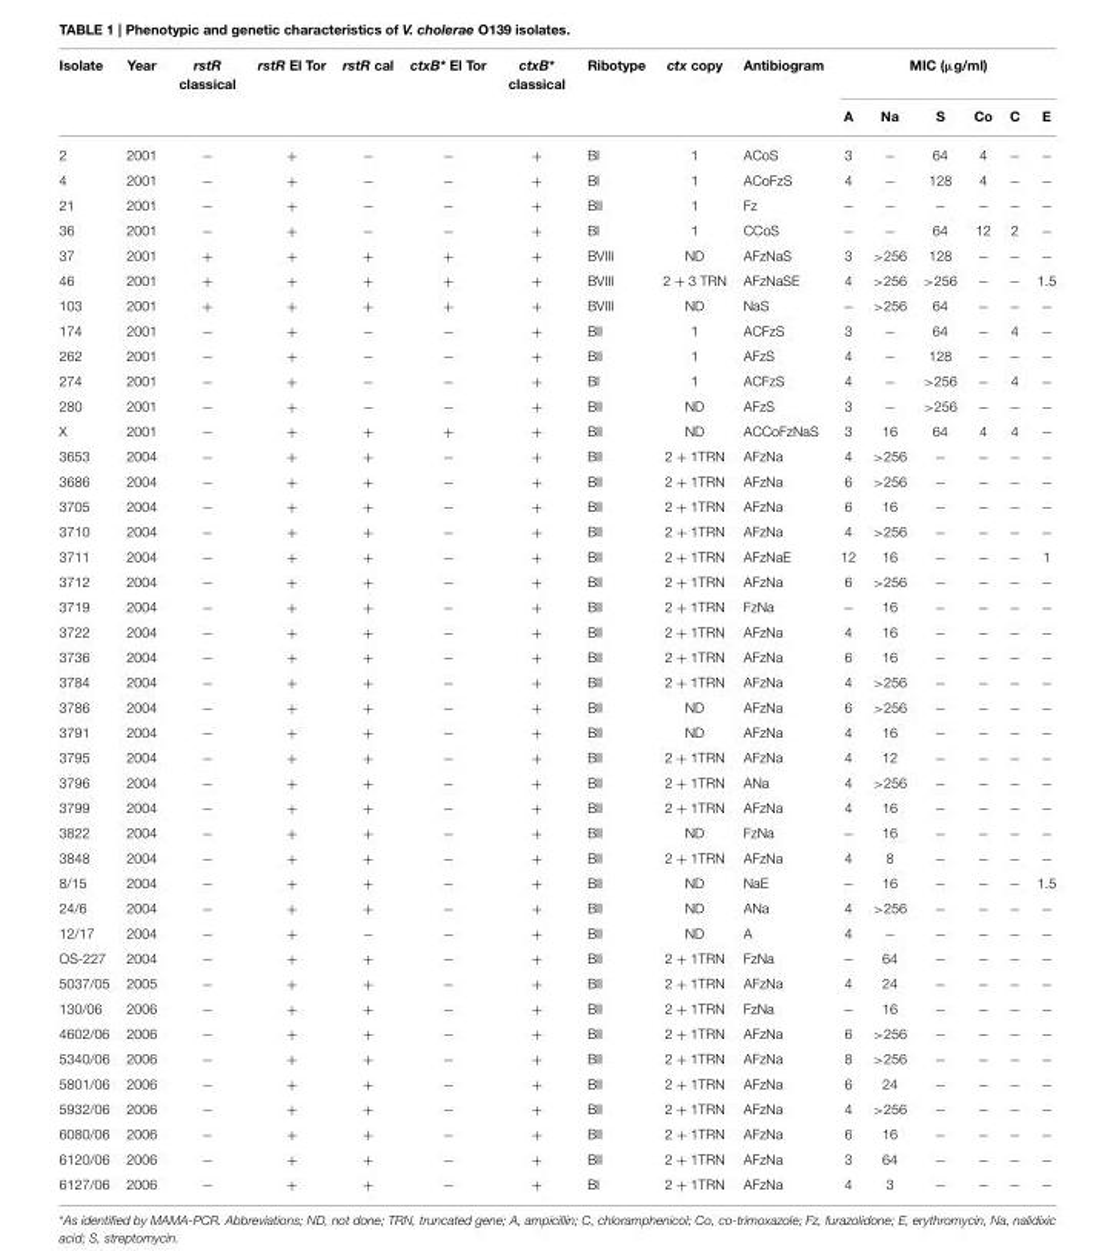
<table><thead><tr><td rowspan="2">Isolate</td><td rowspan="2">Year</td><td rowspan="2">rstR classical</td><td rowspan="2">rstR El Tor</td><td rowspan="2">rstR cal</td><td rowspan="2">ctxB* El Tor</td><td rowspan="2">ctxB* classical</td><td rowspan="2">Ribotype</td><td rowspan="2">ctx copy</td><td rowspan="2">Antibiogram</td><td colspan="6">MIC (µg/ml)</td></tr><tr><td>A</td><td>Na</td><td>S</td><td>Co</td><td>C</td><td>E</td></tr></thead><tbody><tr><td>2</td><td>2001</td><td>−</td><td>+</td><td>−</td><td>−</td><td>+</td><td>BI</td><td>1</td><td>ACoS</td><td>3</td><td>−</td><td>64</td><td>4</td><td>−</td><td>−</td></tr><tr><td>4</td><td>2001</td><td>−</td><td>+</td><td>−</td><td>−</td><td>+</td><td>BI</td><td>1</td><td>ACoFzS</td><td>4</td><td>−</td><td>128</td><td>4</td><td>−</td><td>−</td></tr><tr><td>21</td><td>2001</td><td>−</td><td>+</td><td>−</td><td>−</td><td>+</td><td>BII</td><td>1</td><td>Fz</td><td>−</td><td>−</td><td>−</td><td>−</td><td>−</td><td>−</td></tr><tr><td>36</td><td>2001</td><td>−</td><td>+</td><td>−</td><td>−</td><td>+</td><td>BI</td><td>1</td><td>CCoS</td><td>−</td><td>−</td><td>64</td><td>12</td><td>2</td><td>−</td></tr><tr><td>37</td><td>2001</td><td>+</td><td>+</td><td>+</td><td>+</td><td>+</td><td>BVIII</td><td>ND</td><td>AFzNaS</td><td>3</td><td>&gt;256</td><td>128</td><td>−</td><td>−</td><td>−</td></tr><tr><td>46</td><td>2001</td><td>+</td><td>+</td><td>+</td><td>+</td><td>+</td><td>BVIII</td><td>2 + 3 TRN</td><td>AFzNaSE</td><td>4</td><td>&gt;256</td><td>&gt;256</td><td>−</td><td>−</td><td>1.5</td></tr><tr><td>103</td><td>2001</td><td>+</td><td>+</td><td>+</td><td>+</td><td>+</td><td>BVIII</td><td>ND</td><td>NaS</td><td>−</td><td>&gt;256</td><td>64</td><td>−</td><td>−</td><td>−</td></tr><tr><td>174</td><td>2001</td><td>−</td><td>+</td><td>−</td><td>−</td><td>+</td><td>BII</td><td>1</td><td>ACFzS</td><td>3</td><td>−</td><td>64</td><td>−</td><td>4</td><td>−</td></tr><tr><td>262</td><td>2001</td><td>−</td><td>+</td><td>−</td><td>−</td><td>+</td><td>BII</td><td>1</td><td>AFzS</td><td>4</td><td>−</td><td>128</td><td>−</td><td>−</td><td>−</td></tr><tr><td>274</td><td>2001</td><td>−</td><td>+</td><td>−</td><td>−</td><td>+</td><td>BI</td><td>1</td><td>ACFzS</td><td>4</td><td>−</td><td>&gt;256</td><td>−</td><td>4</td><td>−</td></tr><tr><td>280</td><td>2001</td><td>−</td><td>+</td><td>−</td><td>−</td><td>+</td><td>BII</td><td>ND</td><td>AFzS</td><td>3</td><td>−</td><td>&gt;256</td><td>−</td><td>−</td><td>−</td></tr><tr><td>X</td><td>2001</td><td>−</td><td>+</td><td>+</td><td>+</td><td>+</td><td>BII</td><td>ND</td><td>ACCoFzNaS</td><td>3</td><td>16</td><td>64</td><td>4</td><td>4</td><td>−</td></tr><tr><td>3653</td><td>2004</td><td>−</td><td>+</td><td>+</td><td>−</td><td>+</td><td>BII</td><td>2 + 1TRN</td><td>AFzNa</td><td>4</td><td>&gt;256</td><td>−</td><td>−</td><td>−</td><td>−</td></tr><tr><td>3686</td><td>2004</td><td>−</td><td>+</td><td>+</td><td>−</td><td>+</td><td>BII</td><td>2 + 1TRN</td><td>AFzNa</td><td>6</td><td>&gt;256</td><td>−</td><td>−</td><td>−</td><td>−</td></tr><tr><td>3705</td><td>2004</td><td>−</td><td>+</td><td>+</td><td>−</td><td>+</td><td>BII</td><td>2 + 1TRN</td><td>AFzNa</td><td>6</td><td>16</td><td>−</td><td>−</td><td>−</td><td>−</td></tr><tr><td>3710</td><td>2004</td><td>−</td><td>+</td><td>+</td><td>−</td><td>+</td><td>BII</td><td>2 + 1TRN</td><td>AFzNa</td><td>4</td><td>&gt;256</td><td>−</td><td>−</td><td>−</td><td>−</td></tr><tr><td>3711</td><td>2004</td><td>−</td><td>+</td><td>+</td><td>−</td><td>+</td><td>BII</td><td>2 + 1TRN</td><td>AFzNaE</td><td>12</td><td>16</td><td>−</td><td>−</td><td>−</td><td>1</td></tr><tr><td>3712</td><td>2004</td><td>−</td><td>+</td><td>+</td><td>−</td><td>+</td><td>BII</td><td>2 + 1TRN</td><td>AFzNa</td><td>6</td><td>&gt;256</td><td>−</td><td>−</td><td>−</td><td>−</td></tr><tr><td>3719</td><td>2004</td><td>−</td><td>+</td><td>+</td><td>−</td><td>+</td><td>BII</td><td>2 + 1TRN</td><td>FzNa</td><td>−</td><td>16</td><td>−</td><td>−</td><td>−</td><td>−</td></tr><tr><td>3722</td><td>2004</td><td>−</td><td>+</td><td>+</td><td>−</td><td>+</td><td>BII</td><td>2 + 1TRN</td><td>AFzNa</td><td>4</td><td>16</td><td>−</td><td>−</td><td>−</td><td>−</td></tr><tr><td>3736</td><td>2004</td><td>−</td><td>+</td><td>+</td><td>−</td><td>+</td><td>BII</td><td>2 + 1TRN</td><td>AFzNa</td><td>6</td><td>16</td><td>−</td><td>−</td><td>−</td><td>−</td></tr><tr><td>3784</td><td>2004</td><td>−</td><td>+</td><td>+</td><td>−</td><td>+</td><td>BII</td><td>2 + 1TRN</td><td>AFzNa</td><td>4</td><td>&gt;256</td><td>−</td><td>−</td><td>−</td><td>−</td></tr><tr><td>3786</td><td>2004</td><td>−</td><td>+</td><td>+</td><td>−</td><td>+</td><td>BII</td><td>ND</td><td>AFzNa</td><td>6</td><td>&gt;256</td><td>−</td><td>−</td><td>−</td><td>−</td></tr><tr><td>3791</td><td>2004</td><td>−</td><td>+</td><td>+</td><td>−</td><td>+</td><td>BII</td><td>ND</td><td>AFzNa</td><td>4</td><td>16</td><td>−</td><td>−</td><td>−</td><td>−</td></tr><tr><td>3795</td><td>2004</td><td>−</td><td>+</td><td>+</td><td>−</td><td>+</td><td>BII</td><td>2 + 1TRN</td><td>AFzNa</td><td>4</td><td>12</td><td>−</td><td>−</td><td>−</td><td>−</td></tr><tr><td>3796</td><td>2004</td><td>−</td><td>+</td><td>+</td><td>−</td><td>+</td><td>BII</td><td>2 + 1TRN</td><td>ANa</td><td>4</td><td>&gt;256</td><td>−</td><td>−</td><td>−</td><td>−</td></tr><tr><td>3799</td><td>2004</td><td>−</td><td>+</td><td>+</td><td>−</td><td>+</td><td>BII</td><td>2 + 1TRN</td><td>AFzNa</td><td>4</td><td>16</td><td>−</td><td>−</td><td>−</td><td>−</td></tr><tr><td>3822</td><td>2004</td><td>−</td><td>+</td><td>+</td><td>−</td><td>+</td><td>BII</td><td>ND</td><td>FzNa</td><td>−</td><td>16</td><td>−</td><td>−</td><td>−</td><td>−</td></tr><tr><td>3848</td><td>2004</td><td>−</td><td>+</td><td>+</td><td>−</td><td>+</td><td>BII</td><td>2 + 1TRN</td><td>AFzNa</td><td>4</td><td>8</td><td>−</td><td>−</td><td>−</td><td>−</td></tr><tr><td>8/15</td><td>2004</td><td>−</td><td>+</td><td>+</td><td>−</td><td>+</td><td>BII</td><td>ND</td><td>NaE</td><td>−</td><td>16</td><td>−</td><td>−</td><td>−</td><td>1.5</td></tr><tr><td>24/6</td><td>2004</td><td>−</td><td>+</td><td>+</td><td>−</td><td>+</td><td>BII</td><td>ND</td><td>ANa</td><td>4</td><td>&gt;256</td><td>−</td><td>−</td><td>−</td><td>−</td></tr><tr><td>12/17</td><td>2004</td><td>−</td><td>+</td><td>−</td><td>−</td><td>+</td><td>BII</td><td>ND</td><td>A</td><td>4</td><td>−</td><td>−</td><td>−</td><td>−</td><td>−</td></tr><tr><td>OS-227</td><td>2004</td><td>−</td><td>+</td><td>+</td><td>−</td><td>+</td><td>BII</td><td>2 + 1TRN</td><td>FzNa</td><td>−</td><td>64</td><td>−</td><td>−</td><td>−</td><td>−</td></tr><tr><td>5037/05</td><td>2005</td><td>−</td><td>+</td><td>+</td><td>−</td><td>+</td><td>BII</td><td>2 + 1TRN</td><td>AFzNa</td><td>4</td><td>24</td><td>−</td><td>−</td><td>−</td><td>−</td></tr><tr><td>130/06</td><td>2006</td><td>−</td><td>+</td><td>+</td><td>−</td><td>+</td><td>BII</td><td>2 + 1TRN</td><td>FzNa</td><td>−</td><td>16</td><td>−</td><td>−</td><td>−</td><td>−</td></tr><tr><td>4602/06</td><td>2006</td><td>−</td><td>+</td><td>+</td><td>−</td><td>+</td><td>BII</td><td>2 + 1TRN</td><td>AFzNa</td><td>6</td><td>&gt;256</td><td>−</td><td>−</td><td>−</td><td>−</td></tr><tr><td>5340/06</td><td>2006</td><td>−</td><td>+</td><td>+</td><td>−</td><td>+</td><td>BII</td><td>2 + 1TRN</td><td>AFzNa</td><td>8</td><td>&gt;256</td><td>−</td><td>−</td><td>−</td><td>−</td></tr><tr><td>5801/06</td><td>2006</td><td>−</td><td>+</td><td>+</td><td>−</td><td>+</td><td>BII</td><td>2 + 1TRN</td><td>AFzNa</td><td>6</td><td>24</td><td>−</td><td>−</td><td>−</td><td>−</td></tr><tr><td>5932/06</td><td>2006</td><td>−</td><td>+</td><td>+</td><td>−</td><td>+</td><td>BII</td><td>2 + 1TRN</td><td>AFzNa</td><td>4</td><td>&gt;256</td><td>−</td><td>−</td><td>−</td><td>−</td></tr><tr><td>6080/06</td><td>2006</td><td>−</td><td>+</td><td>+</td><td>−</td><td>+</td><td>BII</td><td>2 + 1TRN</td><td>AFzNa</td><td>6</td><td>16</td><td>−</td><td>−</td><td>−</td><td>−</td></tr><tr><td>6120/06</td><td>2006</td><td>−</td><td>+</td><td>+</td><td>−</td><td>+</td><td>BII</td><td>2 + 1TRN</td><td>AFzNa</td><td>3</td><td>64</td><td>−</td><td>−</td><td>−</td><td>−</td></tr><tr><td>6127/06</td><td>2006</td><td>−</td><td>+</td><td>+</td><td>−</td><td>+</td><td>BI</td><td>2 + 1TRN</td><td>AFzNa</td><td>4</td><td>3</td><td>−</td><td>−</td><td>−</td><td>−</td></tr></tbody></table>